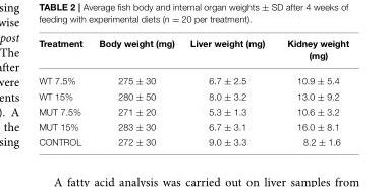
<table><thead><tr><td>Treatment</td><td>Body weight (mg)</td><td>Liver weight (mg)</td><td>Kidney weight (mg)</td></tr></thead><tbody><tr><td>WT 7.5%</td><td>275 ± 30</td><td>6.7 ± 2.5</td><td>10.9 ± 5.4</td></tr><tr><td>WT 15%</td><td>280 ± 50</td><td>8.0 ± 3.2</td><td>13.0 ± 9.2</td></tr><tr><td>MUT 7.5%</td><td>271 ± 20</td><td>5.3 ± 1.3</td><td>10.6 ± 3.2</td></tr><tr><td>MUT 15%</td><td>283 ± 30</td><td>6.7 ± 3.1</td><td>16.0 ± 8.1</td></tr><tr><td>CONTROL</td><td>272 ± 30</td><td>9.0 ± 3.3</td><td>8.2 ± 1.6</td></tr></tbody></table>